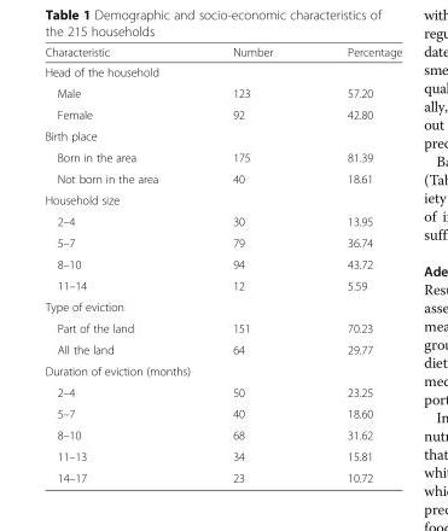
<table><thead><tr><td>Characteristic</td><td>Number</td><td>Percentage</td></tr></thead><tbody><tr><td colspan="3">Head of the household</td></tr><tr><td>Male</td><td>123</td><td>57.20</td></tr><tr><td>Female</td><td>92</td><td>42.80</td></tr><tr><td colspan="3">Birth place</td></tr><tr><td>Born in the area</td><td>175</td><td>81.39</td></tr><tr><td>Not born in the area</td><td>40</td><td>18.61</td></tr><tr><td colspan="3">Household size</td></tr><tr><td>2–4</td><td>30</td><td>13.95</td></tr><tr><td>5–7</td><td>79</td><td>36.74</td></tr><tr><td>8–10</td><td>94</td><td>43.72</td></tr><tr><td>11–14</td><td>12</td><td>5.59</td></tr><tr><td colspan="3">Type of eviction</td></tr><tr><td>Part of the land</td><td>151</td><td>70.23</td></tr><tr><td>All the land</td><td>64</td><td>29.77</td></tr><tr><td colspan="3">Duration of eviction (months)</td></tr><tr><td>2–4</td><td>50</td><td>23.25</td></tr><tr><td>5–7</td><td>40</td><td>18.60</td></tr><tr><td>8–10</td><td>68</td><td>31.62</td></tr><tr><td>11–13</td><td>34</td><td>15.81</td></tr><tr><td>14–17</td><td>23</td><td>10.72</td></tr></tbody></table>